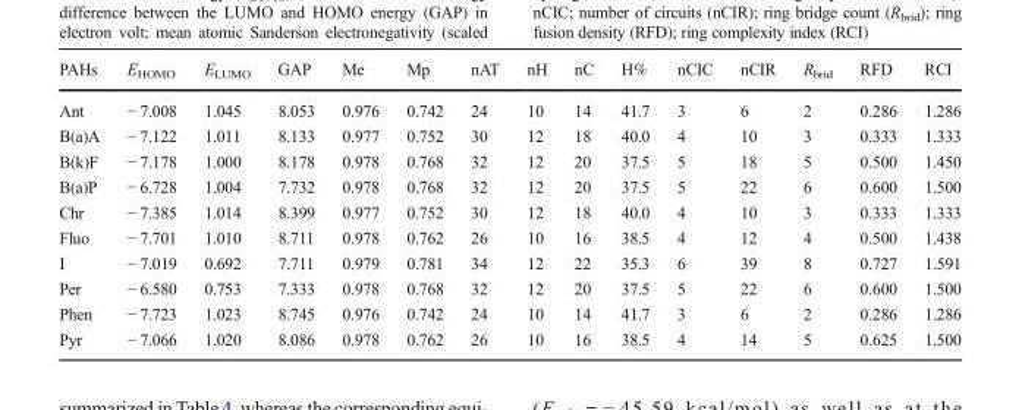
<table><thead><tr><td>PAHs</td><td>E<sub>HOMO</sub></td><td>E<sub>LUMO</sub></td><td>GAP</td><td>Me</td><td>Mp</td><td>nAT</td><td>nH</td><td>nC</td><td>H%</td><td>nCIC</td><td>nCIR</td><td>R<sub>brid</sub></td><td>RFD</td><td>RCI</td></tr></thead><tbody><tr><td>Ant</td><td>− 7.008</td><td>1.045</td><td>8.053</td><td>0.976</td><td>0.742</td><td>24</td><td>10</td><td>14</td><td>41.7</td><td>3</td><td>6</td><td>2</td><td>0.286</td><td>1.286</td></tr><tr><td>B(a)A</td><td>− 7.122</td><td>1.011</td><td>8.133</td><td>0.977</td><td>0.752</td><td>30</td><td>12</td><td>18</td><td>40.0</td><td>4</td><td>10</td><td>3</td><td>0.333</td><td>1.333</td></tr><tr><td>B(k)F</td><td>− 7.178</td><td>1.000</td><td>8.178</td><td>0.978</td><td>0.768</td><td>32</td><td>12</td><td>20</td><td>37.5</td><td>5</td><td>18</td><td>5</td><td>0.500</td><td>1.450</td></tr><tr><td>B(a)P</td><td>− 6.728</td><td>1.004</td><td>7.732</td><td>0.978</td><td>0.768</td><td>32</td><td>12</td><td>20</td><td>37.5</td><td>5</td><td>22</td><td>6</td><td>0.600</td><td>1.500</td></tr><tr><td>Chr</td><td>− 7.385</td><td>1.014</td><td>8.399</td><td>0.977</td><td>0.752</td><td>30</td><td>12</td><td>18</td><td>40.0</td><td>4</td><td>10</td><td>3</td><td>0.333</td><td>1.333</td></tr><tr><td>Fluo</td><td>− 7.701</td><td>1.010</td><td>8.711</td><td>0.978</td><td>0.762</td><td>26</td><td>10</td><td>16</td><td>38.5</td><td>4</td><td>12</td><td>4</td><td>0.500</td><td>1.438</td></tr><tr><td>I</td><td>− 7.019</td><td>0.692</td><td>7.711</td><td>0.979</td><td>0.781</td><td>34</td><td>12</td><td>22</td><td>35.3</td><td>6</td><td>39</td><td>8</td><td>0.727</td><td>1.591</td></tr><tr><td>Per</td><td>− 6.580</td><td>0.753</td><td>7.333</td><td>0.978</td><td>0.768</td><td>32</td><td>12</td><td>20</td><td>37.5</td><td>5</td><td>22</td><td>6</td><td>0.600</td><td>1.500</td></tr><tr><td>Phen</td><td>− 7.723</td><td>1.023</td><td>8.745</td><td>0.976</td><td>0.742</td><td>24</td><td>10</td><td>14</td><td>41.7</td><td>3</td><td>6</td><td>2</td><td>0.286</td><td>1.286</td></tr><tr><td>Pyr</td><td>− 7.066</td><td>1.020</td><td>8.086</td><td>0.978</td><td>0.762</td><td>26</td><td>10</td><td>16</td><td>38.5</td><td>4</td><td>14</td><td>5</td><td>0.625</td><td>1.500</td></tr></tbody></table>